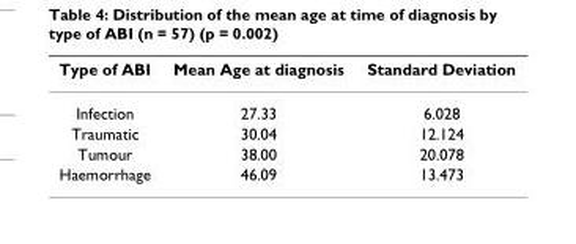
<table><thead><tr><td>Type of ABI</td><td>Mean Age at diagnosis</td><td>Standard Deviation</td></tr></thead><tbody><tr><td>Infection</td><td>27.33</td><td>6.028</td></tr><tr><td>Traumatic</td><td>30.04</td><td>12.124</td></tr><tr><td>Tumour</td><td>38.00</td><td>20.078</td></tr><tr><td>Haemorrhage</td><td>46.09</td><td>13.473</td></tr></tbody></table>